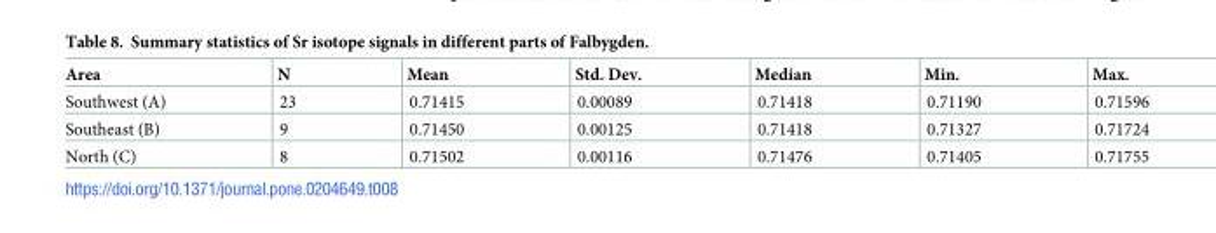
<table><thead><tr><td>Area</td><td>N</td><td>Mean</td><td>Std. Dev.</td><td>Median</td><td>Min.</td><td>Max.</td></tr></thead><tbody><tr><td>Southwest (A)</td><td>23</td><td>0.71415</td><td>0.00089</td><td>0.71418</td><td>0.71190</td><td>0.71596</td></tr><tr><td>Southeast (B)</td><td>9</td><td>0.71450</td><td>0.00125</td><td>0.71418</td><td>0.71327</td><td>0.71724</td></tr><tr><td>North (C)</td><td>8</td><td>0.71502</td><td>0.00116</td><td>0.71476</td><td>0.71405</td><td>0.71755</td></tr></tbody></table>